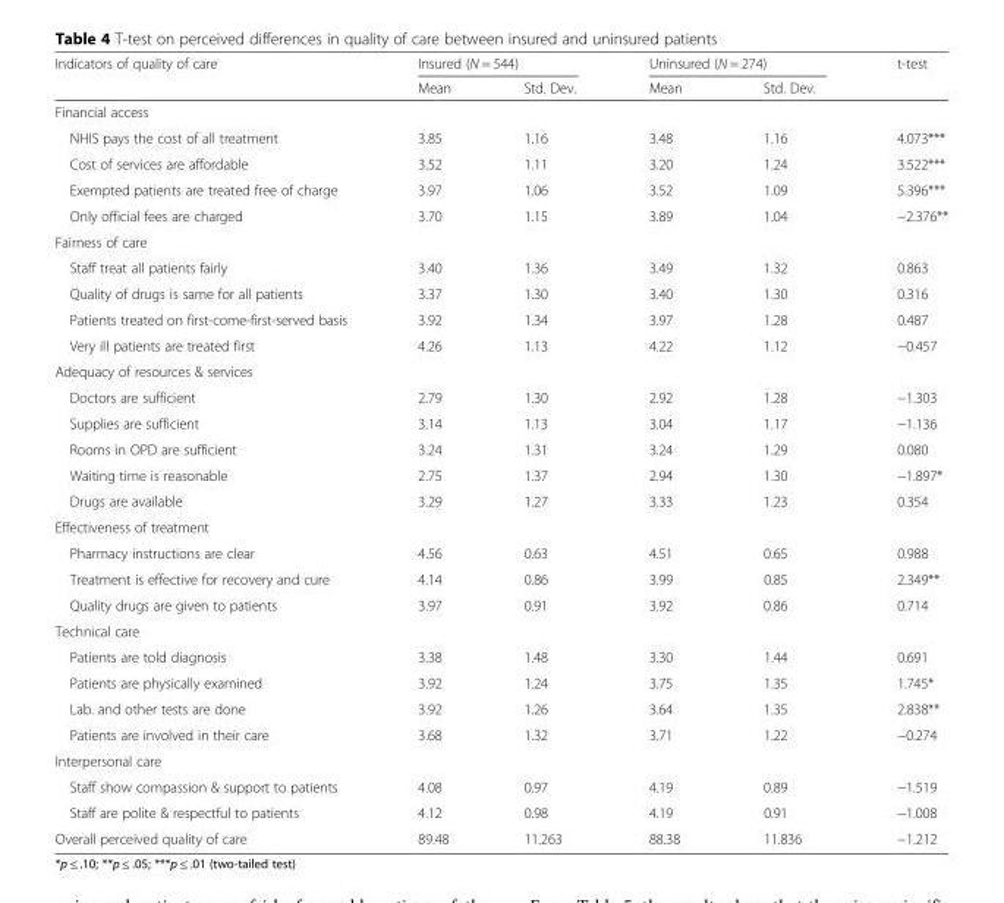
<table><thead><tr><td rowspan="2">Indicators of quality of care</td><td colspan="2">Insured (N = 544)</td><td colspan="2">Uninsured (N = 274)</td><td rowspan="2">t-test</td></tr><tr><td>Mean</td><td>Std. Dev.</td><td>Mean</td><td>Std. Dev.</td></tr></thead><tbody><tr><td colspan="6">Financial access</td></tr><tr><td>NHIS pays the cost of all treatment</td><td>3.85</td><td>1.16</td><td>3.48</td><td>1.16</td><td>4.073***</td></tr><tr><td>Cost of services are affordable</td><td>3.52</td><td>1.11</td><td>3.20</td><td>1.24</td><td>3.522***</td></tr><tr><td>Exempted patients are treated free of charge</td><td>3.97</td><td>1.06</td><td>3.52</td><td>1.09</td><td>5.396***</td></tr><tr><td>Only official fees are charged</td><td>3.70</td><td>1.15</td><td>3.89</td><td>1.04</td><td>−2.376**</td></tr><tr><td colspan="6">Fairness of care</td></tr><tr><td>Staff treat all patients fairly</td><td>3.40</td><td>1.36</td><td>3.49</td><td>1.32</td><td>0.863</td></tr><tr><td>Quality of drugs is same for all patients</td><td>3.37</td><td>1.30</td><td>3.40</td><td>1.30</td><td>0.316</td></tr><tr><td>Patients treated on first-come-first-served basis</td><td>3.92</td><td>1.34</td><td>3.97</td><td>1.28</td><td>0.487</td></tr><tr><td>Very ill patients are treated first</td><td>4.26</td><td>1.13</td><td>4.22</td><td>1.12</td><td>−0.457</td></tr><tr><td colspan="6">Adequacy of resources &amp; services</td></tr><tr><td>Doctors are sufficient</td><td>2.79</td><td>1.30</td><td>2.92</td><td>1.28</td><td>−1.303</td></tr><tr><td>Supplies are sufficient</td><td>3.14</td><td>1.13</td><td>3.04</td><td>1.17</td><td>−1.136</td></tr><tr><td>Rooms in OPD are sufficient</td><td>3.24</td><td>1.31</td><td>3.24</td><td>1.29</td><td>0.080</td></tr><tr><td>Waiting time is reasonable</td><td>2.75</td><td>1.37</td><td>2.94</td><td>1.30</td><td>−1.897*</td></tr><tr><td>Drugs are available</td><td>3.29</td><td>1.27</td><td>3.33</td><td>1.23</td><td>0.354</td></tr><tr><td colspan="6">Effectiveness of treatment</td></tr><tr><td>Pharmacy instructions are clear</td><td>4.56</td><td>0.63</td><td>4.51</td><td>0.65</td><td>0.988</td></tr><tr><td>Treatment is effective for recovery and cure</td><td>4.14</td><td>0.86</td><td>3.99</td><td>0.85</td><td>2.349**</td></tr><tr><td>Quality drugs are given to patients</td><td>3.97</td><td>0.91</td><td>3.92</td><td>0.86</td><td>0.714</td></tr><tr><td colspan="6">Technical care</td></tr><tr><td>Patients are told diagnosis</td><td>3.38</td><td>1.48</td><td>3.30</td><td>1.44</td><td>0.691</td></tr><tr><td>Patients are physically examined</td><td>3.92</td><td>1.24</td><td>3.75</td><td>1.35</td><td>1.745*</td></tr><tr><td>Lab. and other tests are done</td><td>3.92</td><td>1.26</td><td>3.64</td><td>1.35</td><td>2.838**</td></tr><tr><td>Patients are involved in their care</td><td>3.68</td><td>1.32</td><td>3.71</td><td>1.22</td><td>−0.274</td></tr><tr><td colspan="6">Interpersonal care</td></tr><tr><td>Staff show compassion &amp; support to patients</td><td>4.08</td><td>0.97</td><td>4.19</td><td>0.89</td><td>−1.519</td></tr><tr><td>Staff are polite &amp; respectful to patients</td><td>4.12</td><td>0.98</td><td>4.19</td><td>0.91</td><td>−1.008</td></tr><tr><td>Overall perceived quality of care</td><td>89.48</td><td>11.263</td><td>88.38</td><td>11.836</td><td>−1.212</td></tr></tbody></table>